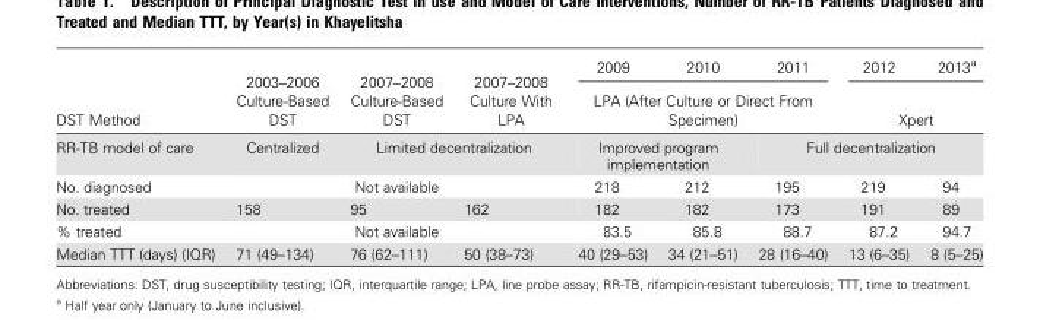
<table><thead><tr><td rowspan="2">DST Method</td><td rowspan="2">2003–2006 Culture-Based DST</td><td rowspan="2">2007–2008 Culture-Based DST</td><td rowspan="2">2007–2008 Culture With LPA</td><td>2009</td><td>2010</td><td>2011</td><td>2012</td><td>2013<sup>a</sup></td></tr><tr><td colspan="3">LPA (After Culture or Direct From Specimen)</td><td colspan="2">Xpert</td></tr></thead><tbody><tr><td>RR-TB model of care</td><td>Centralized</td><td colspan="2">Limited decentralization</td><td colspan="2">Improved program implementation</td><td colspan="3">Full decentralization</td></tr><tr><td>No. diagnosed</td><td colspan="3">Not available</td><td>218</td><td>212</td><td>195</td><td>219</td><td>94</td></tr><tr><td>No. treated</td><td>158</td><td>95</td><td>162</td><td>182</td><td>182</td><td>173</td><td>191</td><td>89</td></tr><tr><td>% treated</td><td colspan="3">Not available</td><td>83.5</td><td>85.8</td><td>88.7</td><td>87.2</td><td>94.7</td></tr><tr><td>Median TTT (days) (IQR)</td><td>71 (49–134)</td><td>76 (62–111)</td><td>50 (38–73)</td><td>40 (29–53)</td><td>34 (21–51)</td><td>28 (16–40)</td><td>13 (6–35)</td><td>8 (5–25)</td></tr></tbody></table>